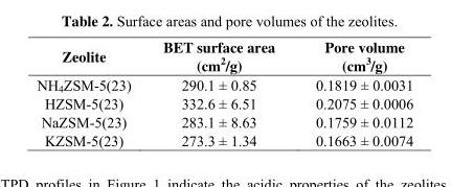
<table><thead><tr><td>Zeolite</td><td>BET surface area (cm<sup>2</sup>/g)</td><td>Pore volume (cm<sup>3</sup>/g)</td></tr></thead><tbody><tr><td>NH<sub>4</sub>ZSM-5(23)</td><td>290.1 ± 0.85</td><td>0.1819 ± 0.0031</td></tr><tr><td>HZSM-5(23)</td><td>332.6 ± 6.51</td><td>0.2075 ± 0.0006</td></tr><tr><td>NaZSM-5(23)</td><td>283.1 ± 8.63</td><td>0.1759 ± 0.0112</td></tr><tr><td>KZSM-5(23)</td><td>273.3 ± 1.34</td><td>0.1663 ± 0.0074</td></tr></tbody></table>